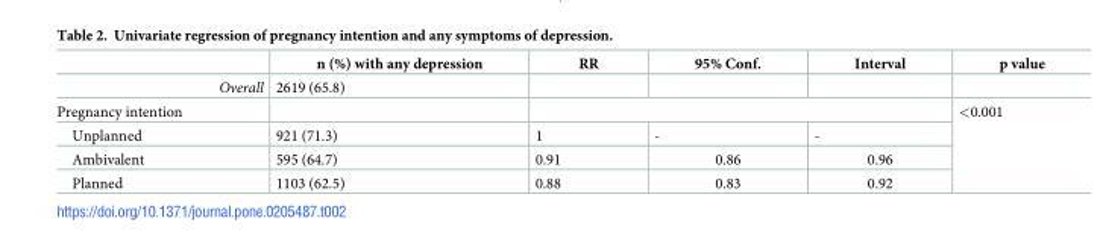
<table><thead><tr><td></td><td>n (%) with any depression</td><td>RR</td><td>95% Conf.</td><td>Interval</td><td>p value</td></tr></thead><tbody><tr><td>Overall</td><td>2619 (65.8)</td><td></td><td></td><td></td><td></td></tr><tr><td colspan="5">Pregnancy intention</td><td rowspan="4">&lt;0.001</td></tr><tr><td>Unplanned</td><td>921 (71.3)</td><td>1</td><td>-</td><td>-</td></tr><tr><td>Ambivalent</td><td>595 (64.7)</td><td>0.91</td><td>0.86</td><td>0.96</td></tr><tr><td>Planned</td><td>1103 (62.5)</td><td>0.88</td><td>0.83</td><td>0.92</td></tr></tbody></table>